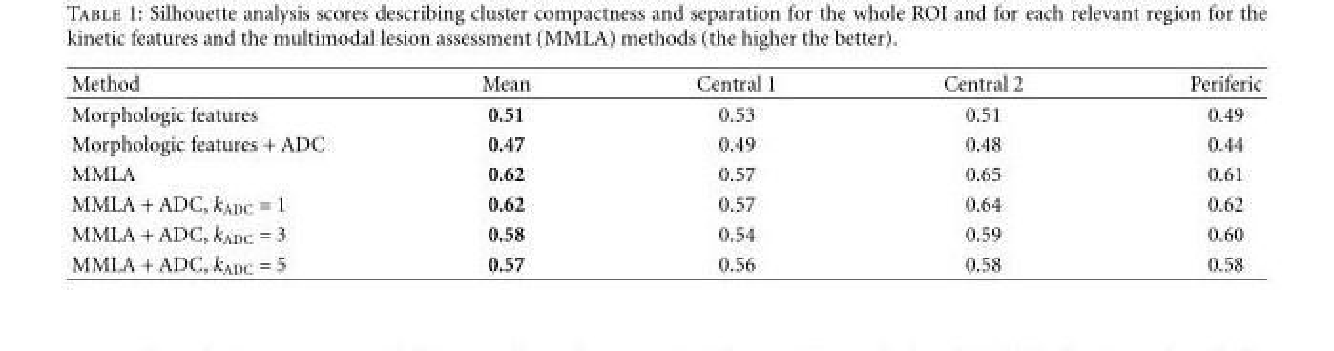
<table><thead><tr><td>Method</td><td>Mean</td><td>Central 1</td><td>Central 2</td><td>Periferic</td></tr></thead><tbody><tr><td>Morphologic features</td><td>0.51</td><td>0.53</td><td>0.51</td><td>0.49</td></tr><tr><td>Morphologic features + ADC</td><td>0.47</td><td>0.49</td><td>0.48</td><td>0.44</td></tr><tr><td>MMLA</td><td>0.62</td><td>0.57</td><td>0.65</td><td>0.61</td></tr><tr><td>MMLA + ADC, k<sub>ADC</sub> = 1</td><td>0.62</td><td>0.57</td><td>0.64</td><td>0.62</td></tr><tr><td>MMLA + ADC, k<sub>ADC</sub> = 3</td><td>0.58</td><td>0.54</td><td>0.59</td><td>0.60</td></tr><tr><td>MMLA + ADC, k<sub>ADC</sub> = 5</td><td>0.57</td><td>0.56</td><td>0.58</td><td>0.58</td></tr></tbody></table>